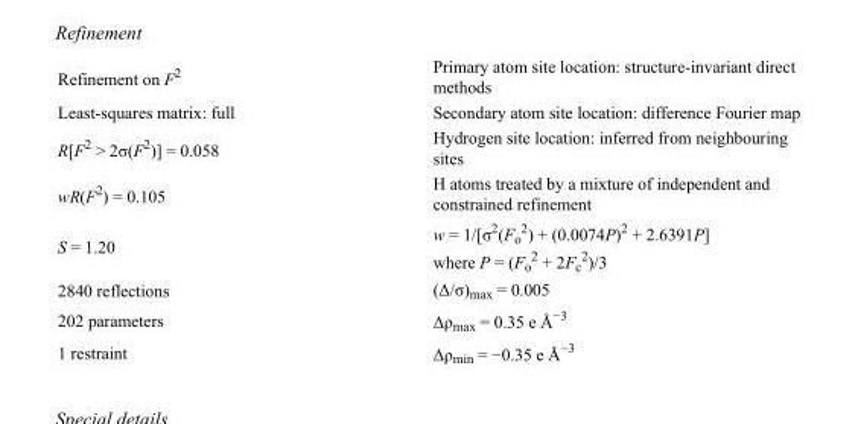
<table><tbody><tr><td>Refinement on F<sup>2</sup></td><td>Primary atom site location: structure-invariant direct methods</td></tr><tr><td>Least-squares matrix: full</td><td>Secondary atom site location: difference Fourier map</td></tr><tr><td>R[F<sup>2</sup> &gt; 2σ(F<sup>2</sup>)] = 0.058</td><td>Hydrogen site location: inferred from neighbouring sites</td></tr><tr><td>wR(F<sup>2</sup>) = 0.105</td><td>H atoms treated by a mixture of independent and constrained refinement</td></tr><tr><td>S = 1.20</td><td>w = 1/[σ<sup>2</sup>(F<sub>o</sub> <sup>2</sup>) + (0.0074P)<sup>2</sup> + 2.6391P] where P = (F<sub>o</sub> <sup>2</sup> + 2F<sub>c</sub> <sup>2</sup>)/3</td></tr><tr><td>2840 reflections</td><td>(Δ/σ)<sub>max</sub> = 0.005</td></tr><tr><td>202 parameters</td><td>Δρ<sub>max</sub> = 0.35 e Å<sup>−3</sup></td></tr><tr><td>1 restraint</td><td>Δρ<sub>min</sub> = −0.35 e Å<sup>−3</sup></td></tr></tbody></table>